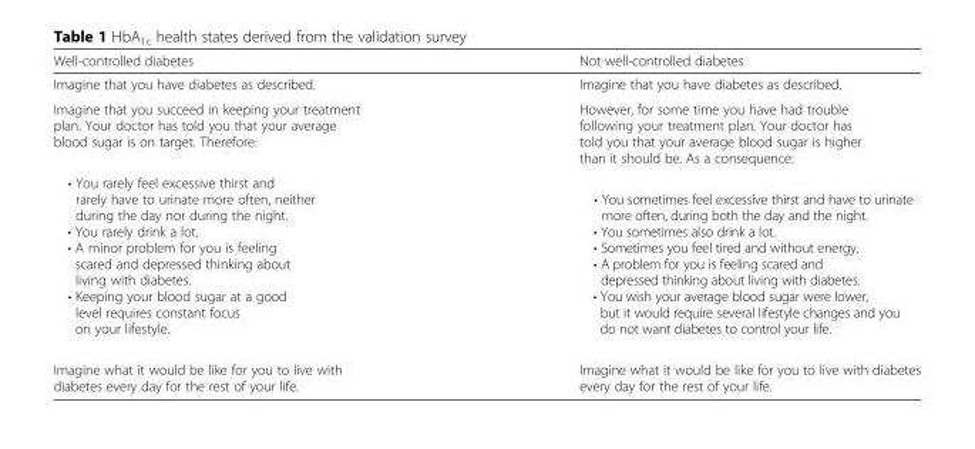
<table><thead><tr><td>Well-controlled diabetes</td><td>Not well-controlled diabetes</td></tr></thead><tbody><tr><td>Imagine that you have diabetes as described.</td><td>Imagine that you have diabetes as described.</td></tr><tr><td>Imagine that you succeed in keeping your treatment plan. Your doctor has told you that your average blood sugar is on target. Therefore:</td><td>However, for some time you have had trouble following your treatment plan. Your doctor has told you that your average blood sugar is higher than it should be. As a consequence:</td></tr><tr><td>• You rarely feel excessive thirst and rarely have to urinate more often, neither during the day nor during the night. • You rarely drink a lot. • A minor problem for you is feeling scared and depressed thinking about living with diabetes. • Keeping your blood sugar at a good level requires constant focus on your lifestyle.</td><td>• You sometimes feel excessive thirst and have to urinate more often, during both the day and the night. • You sometimes also drink a lot. • Sometimes you feel tired and without energy. • A problem for you is feeling scared and depressed thinking about living with diabetes. • You wish your average blood sugar were lower, but it would require several lifestyle changes and you do not want diabetes to control your life.</td></tr><tr><td>Imagine what it would be like for you to live with diabetes every day for the rest of your life.</td><td>Imagine what it would be like for you to live with diabetes every day for the rest of your life.</td></tr></tbody></table>